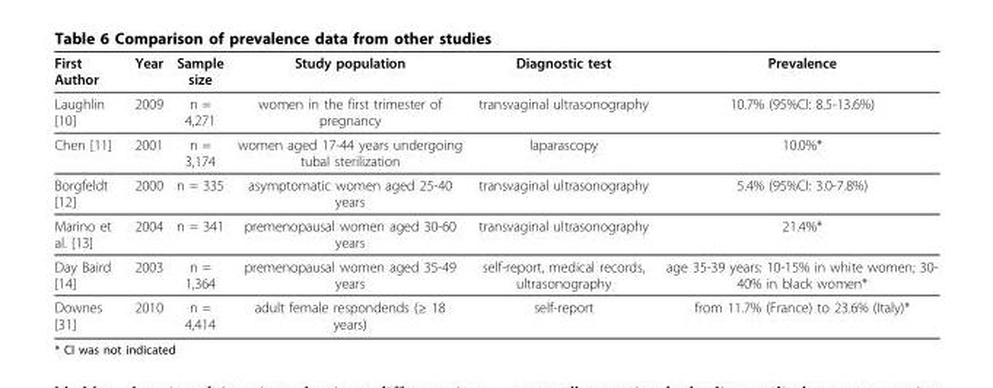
<table><thead><tr><td>First Author</td><td>Year</td><td>Sample size</td><td>Study population</td><td>Diagnostic test</td><td>Prevalence</td></tr></thead><tbody><tr><td>Laughlin [10]</td><td>2009</td><td>n = 4,271</td><td>women in the first trimester of pregnancy</td><td>transvaginal ultrasonography</td><td>10.7% (95%CI: 8.5-13.6%)</td></tr><tr><td>Chen [11]</td><td>2001</td><td>n = 3,174</td><td>women aged 17-44 years undergoing tubal sterilization</td><td>laparascopy</td><td>10.0%*</td></tr><tr><td>Borgfeldt [12]</td><td>2000</td><td>n = 335</td><td>asymptomatic women aged 25-40 years</td><td>transvaginal ultrasonography</td><td>5.4% (95%CI: 3.0-7.8%)</td></tr><tr><td>Marino et al. [13]</td><td>2004</td><td>n = 341</td><td>premenopausal women aged 30-60 years</td><td>transvaginal ultrasonography</td><td>21.4%*</td></tr><tr><td>Day Baird [14]</td><td>2003</td><td>n = 1,364</td><td>premenopausal women aged 35-49 years</td><td>self-report, medical records, ultrasonography</td><td>age 35-39 years: 10-15% in white women; 30- 40% in black women*</td></tr><tr><td>Downes [31]</td><td>2010</td><td>n = 4,414</td><td>adult female respondends (≥ 18 years)</td><td>self-report</td><td>from 11.7% (France) to 23.6% (Italy)*</td></tr></tbody></table>